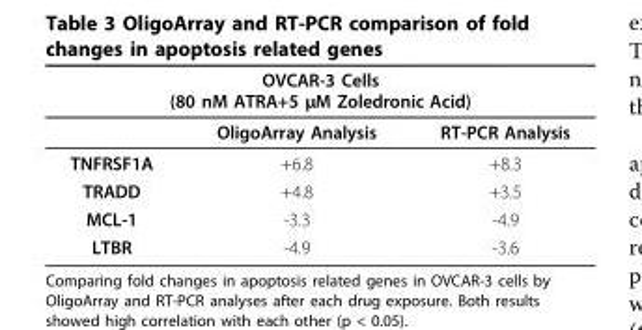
<table><thead><tr><td colspan="3">OVCAR-3 Cells (80 nM ATRA+5 μM Zoledronic Acid)</td></tr><tr><td></td><td>OligoArray Analysis</td><td>RT-PCR Analysis</td></tr></thead><tbody><tr><td>TNFRSF1A</td><td>+6.8</td><td>+8.3</td></tr><tr><td>TRADD</td><td>+4.8</td><td>+3.5</td></tr><tr><td>MCL-1</td><td>-3.3</td><td>-4.9</td></tr><tr><td>LTBR</td><td>-4.9</td><td>-3.6</td></tr></tbody></table>